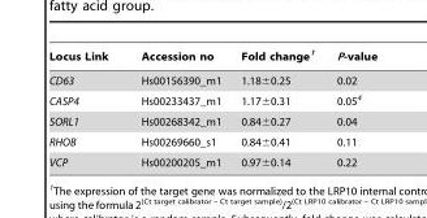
<table><thead><tr><td>Locus Link</td><td>Accession no</td><td>Fold change<sup>1</sup></td><td>P-value</td></tr></thead><tbody><tr><td>CD63</td><td>Hs00156390_m1</td><td>1.18±0.25</td><td>0.02</td></tr><tr><td>CASP4</td><td>Hs00233437_m1</td><td>1.17±0.31</td><td>0.05<sup>4</sup></td></tr><tr><td>SORL1</td><td>Hs00268342_m1</td><td>0.84±0.27</td><td>0.04</td></tr><tr><td>RHOB</td><td>Hs00269660_s1</td><td>0.84±0.41</td><td>0.11</td></tr><tr><td>VCP</td><td>Hs00200205_m1</td><td>0.97±0.14</td><td>0.22</td></tr></tbody></table>